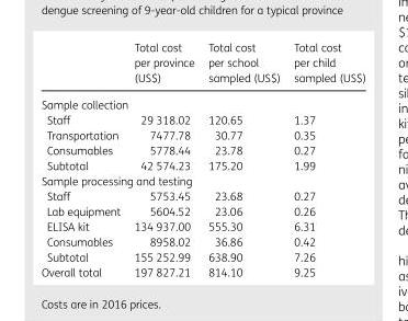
<table><thead><tr><td></td><td>Total cost per province (US$)</td><td>Total cost per school sampled (US$)</td><td>Total cost per child sampled (US$)</td></tr></thead><tbody><tr><td colspan="4">Sample collection</td></tr><tr><td>Staff</td><td>29 318.02</td><td>120.65</td><td>1.37</td></tr><tr><td>Transportation</td><td>7477.78</td><td>30.77</td><td>0.35</td></tr><tr><td>Consumables</td><td>5778.44</td><td>23.78</td><td>0.27</td></tr><tr><td>Subtotal</td><td>42 574.23</td><td>175.20</td><td>1.99</td></tr><tr><td colspan="4">Sample processing and testing</td></tr><tr><td>Staff</td><td>5753.45</td><td>23.68</td><td>0.27</td></tr><tr><td>Lab equipment</td><td>5604.52</td><td>23.06</td><td>0.26</td></tr><tr><td>ELISA kit</td><td>134 937.00</td><td>555.30</td><td>6.31</td></tr><tr><td>Consumables</td><td>8958.02</td><td>36.86</td><td>0.42</td></tr><tr><td>Subtotal</td><td>155 252.99</td><td>638.90</td><td>7.26</td></tr><tr><td>Overall total</td><td>197 827.21</td><td>814.10</td><td>9.25</td></tr></tbody></table>